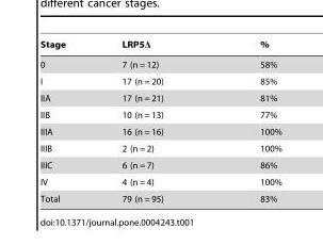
<table><thead><tr><td>Stage</td><td>LRP5Δ</td><td>%</td></tr></thead><tbody><tr><td>0</td><td>7 (n = 12)</td><td>58%</td></tr><tr><td>I</td><td>17 (n = 20)</td><td>85%</td></tr><tr><td>IIA</td><td>17 (n = 21)</td><td>81%</td></tr><tr><td>IIB</td><td>10 (n = 13)</td><td>77%</td></tr><tr><td>IIIA</td><td>16 (n = 16)</td><td>100%</td></tr><tr><td>IIIB</td><td>2 (n = 2)</td><td>100%</td></tr><tr><td>IIIC</td><td>6 (n = 7)</td><td>86%</td></tr><tr><td>IV</td><td>4 (n = 4)</td><td>100%</td></tr><tr><td>Total</td><td>79 (n = 95)</td><td>83%</td></tr></tbody></table>